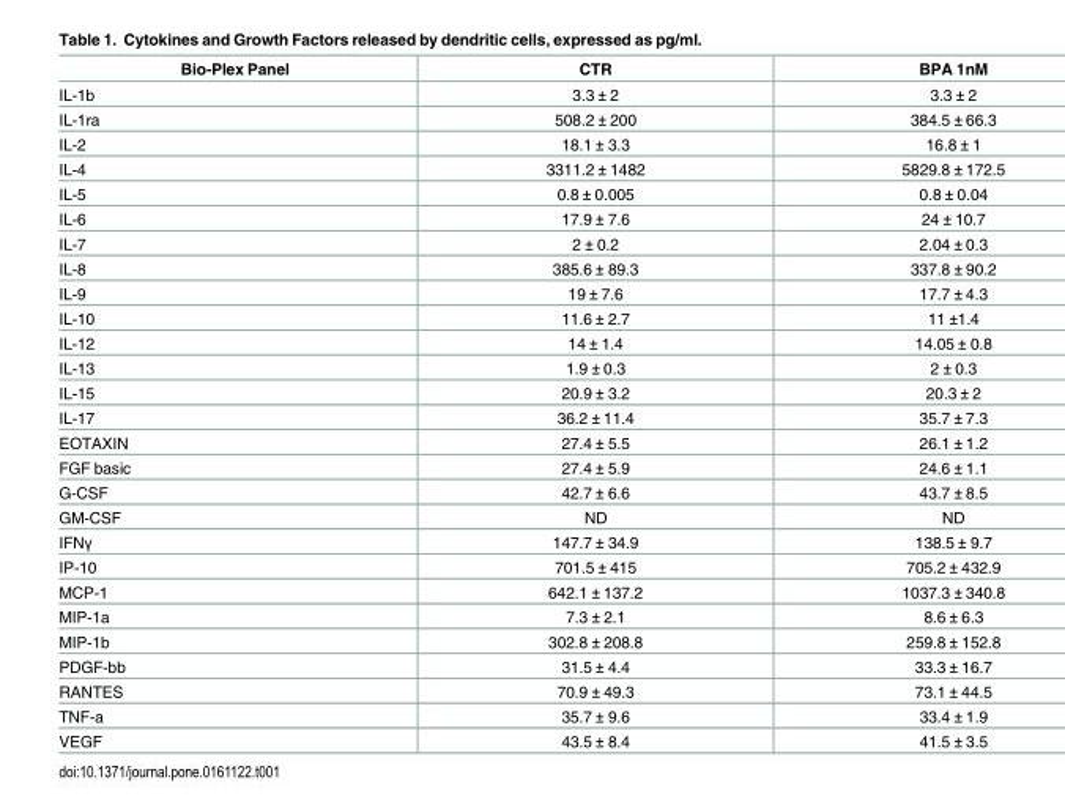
<table><thead><tr><td>Bio-Plex Panel</td><td>CTR</td><td>BPA 1nM</td></tr></thead><tbody><tr><td>IL-1b</td><td>3.3 ± 2</td><td>3.3 ± 2</td></tr><tr><td>IL-1ra</td><td>508.2 ± 200</td><td>384.5 ± 66.3</td></tr><tr><td>IL-2</td><td>18.1 ± 3.3</td><td>16.8 ± 1</td></tr><tr><td>IL-4</td><td>3311.2 ± 1482</td><td>5829.8 ± 172.5</td></tr><tr><td>IL-5</td><td>0.8 ± 0.005</td><td>0.8 ± 0.04</td></tr><tr><td>IL-6</td><td>17.9 ± 7.6</td><td>24 ± 10.7</td></tr><tr><td>IL-7</td><td>2 ± 0.2</td><td>2.04 ± 0.3</td></tr><tr><td>IL-8</td><td>385.6 ± 89.3</td><td>337.8 ± 90.2</td></tr><tr><td>IL-9</td><td>19 ± 7.6</td><td>17.7 ± 4.3</td></tr><tr><td>IL-10</td><td>11.6 ± 2.7</td><td>11 ±1.4</td></tr><tr><td>IL-12</td><td>14 ± 1.4</td><td>14.05 ± 0.8</td></tr><tr><td>IL-13</td><td>1.9 ± 0.3</td><td>2 ± 0.3</td></tr><tr><td>IL-15</td><td>20.9 ± 3.2</td><td>20.3 ± 2</td></tr><tr><td>IL-17</td><td>36.2 ± 11.4</td><td>35.7 ± 7.3</td></tr><tr><td>EOTAXIN</td><td>27.4 ± 5.5</td><td>26.1 ± 1.2</td></tr><tr><td>FGF basic</td><td>27.4 ± 5.9</td><td>24.6 ± 1.1</td></tr><tr><td>G-CSF</td><td>42.7 ± 6.6</td><td>43.7 ± 8.5</td></tr><tr><td>GM-CSF</td><td>ND</td><td>ND</td></tr><tr><td>IFNγ</td><td>147.7 ± 34.9</td><td>138.5 ± 9.7</td></tr><tr><td>IP-10</td><td>701.5 ± 415</td><td>705.2 ± 432.9</td></tr><tr><td>MCP-1</td><td>642.1 ± 137.2</td><td>1037.3 ± 340.8</td></tr><tr><td>MIP-1a</td><td>7.3 ± 2.1</td><td>8.6 ± 6.3</td></tr><tr><td>MIP-1b</td><td>302.8 ± 208.8</td><td>259.8 ± 152.8</td></tr><tr><td>PDGF-bb</td><td>31.5 ± 4.4</td><td>33.3 ± 16.7</td></tr><tr><td>RANTES</td><td>70.9 ± 49.3</td><td>73.1 ± 44.5</td></tr><tr><td>TNF-a</td><td>35.7 ± 9.6</td><td>33.4 ± 1.9</td></tr><tr><td>VEGF</td><td>43.5 ± 8.4</td><td>41.5 ± 3.5</td></tr></tbody></table>